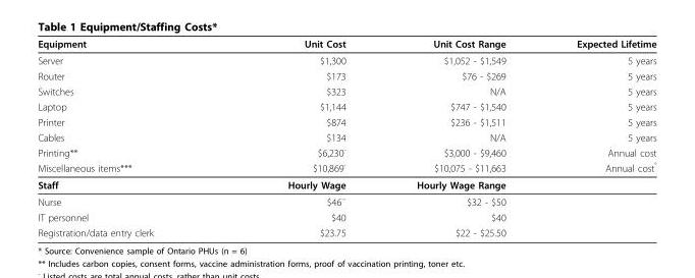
<table><thead><tr><td>Equipment</td><td>Unit Cost</td><td>Unit Cost Range</td><td>Expected Lifetime</td></tr></thead><tbody><tr><td>Server</td><td>$1,300</td><td>$1,052 - $1,549</td><td>5 years</td></tr><tr><td>Router</td><td>$173</td><td>$76 - $269</td><td>5 years</td></tr><tr><td>Switches</td><td>$323</td><td>N/A</td><td>5 years</td></tr><tr><td>Laptop</td><td>$1,144</td><td>$747 - $1,540</td><td>5 years</td></tr><tr><td>Printer</td><td>$874</td><td>$236 - $1,511</td><td>5 years</td></tr><tr><td>Cables</td><td>$134</td><td>N/A</td><td>5 years</td></tr><tr><td>Printing**</td><td>$6,230<sup>-</sup></td><td>$3,000 - $9,460</td><td>Annual cost</td></tr><tr><td>Miscellaneous items***</td><td>$10,869<sup>-</sup></td><td>$10,075 - $11,663</td><td>Annual cost<sup>°</sup></td></tr><tr><td>Staff</td><td>Hourly Wage</td><td>Hourly Wage Range</td><td></td></tr><tr><td>Nurse</td><td>$46<sup>~</sup></td><td>$32 - $50</td><td></td></tr><tr><td>IT personnel</td><td>$40</td><td>$40</td><td></td></tr><tr><td>Registration/data entry clerk</td><td>$23.75</td><td>$22 - $25.50</td><td></td></tr></tbody></table>